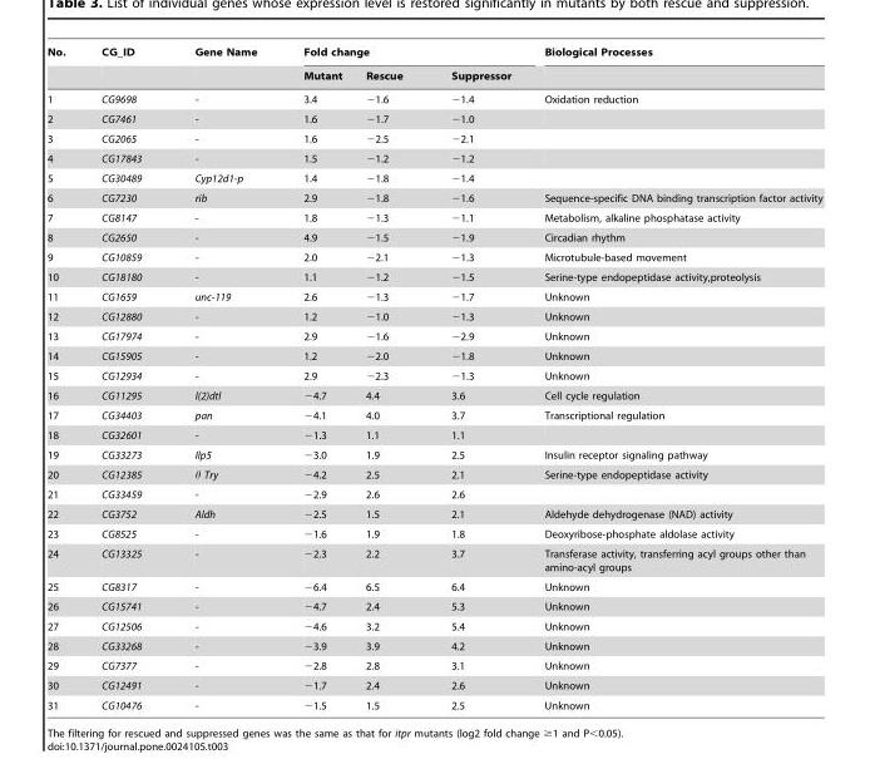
<table><thead><tr><td rowspan="2">No.</td><td rowspan="2">CG_ID</td><td rowspan="2">Gene Name</td><td colspan="3">Fold change</td><td rowspan="2">Biological Processes</td></tr><tr><td>Mutant</td><td>Rescue</td><td>Suppressor</td></tr></thead><tbody><tr><td>1</td><td>CG9698</td><td>-</td><td>3.4</td><td>−1.6</td><td>−1.4</td><td>Oxidation reduction</td></tr><tr><td>2</td><td>CG7461</td><td>-</td><td>1.6</td><td>−1.7</td><td>−1.0</td><td></td></tr><tr><td>3</td><td>CG2065</td><td>-</td><td>1.6</td><td>−2.5</td><td>−2.1</td><td></td></tr><tr><td>4</td><td>CG17843</td><td>-</td><td>1.5</td><td>−1.2</td><td>−1.2</td><td></td></tr><tr><td>5</td><td>CG30489</td><td>Cyp12d1-p</td><td>1.4</td><td>−1.8</td><td>−1.4</td><td></td></tr><tr><td>6</td><td>CG7230</td><td>rib</td><td>2.9</td><td>−1.8</td><td>−1.6</td><td>Sequence-specific DNA binding transcription factor activity</td></tr><tr><td>7</td><td>CG8147</td><td>-</td><td>1.8</td><td>−1.3</td><td>−1.1</td><td>Metabolism, alkaline phosphatase activity</td></tr><tr><td>8</td><td>CG2650</td><td>-</td><td>4.9</td><td>−1.5</td><td>−1.9</td><td>Circadian rhythm</td></tr><tr><td>9</td><td>CG10859</td><td>-</td><td>2.0</td><td>−2.1</td><td>−1.3</td><td>Microtubule-based movement</td></tr><tr><td>10</td><td>CG18180</td><td>-</td><td>1.1</td><td>−1.2</td><td>−1.5</td><td>Serine-type endopeptidase activity,proteolysis</td></tr><tr><td>11</td><td>CG1659</td><td>unc-119</td><td>2.6</td><td>−1.3</td><td>−1.7</td><td>Unknown</td></tr><tr><td>12</td><td>CG12880</td><td>-</td><td>1.2</td><td>−1.0</td><td>−1.3</td><td>Unknown</td></tr><tr><td>13</td><td>CG17974</td><td>-</td><td>2.9</td><td>−1.6</td><td>−2.9</td><td>Unknown</td></tr><tr><td>14</td><td>CG15905</td><td>-</td><td>1.2</td><td>−2.0</td><td>−1.8</td><td>Unknown</td></tr><tr><td>15</td><td>CG12934</td><td>-</td><td>2.9</td><td>−2.3</td><td>−1.3</td><td>Unknown</td></tr><tr><td>16</td><td>CG11295</td><td>l(2)dtl</td><td>−4.7</td><td>4.4</td><td>3.6</td><td>Cell cycle regulation</td></tr><tr><td>17</td><td>CG34403</td><td>pan</td><td>−4.1</td><td>4.0</td><td>3.7</td><td>Transcriptional regulation</td></tr><tr><td>18</td><td>CG32601</td><td>-</td><td>−1.3</td><td>1.1</td><td>1.1</td><td></td></tr><tr><td>19</td><td>CG33273</td><td>Ilp5</td><td>−3.0</td><td>1.9</td><td>2.5</td><td>Insulin receptor signaling pathway</td></tr><tr><td>20</td><td>CG12385</td><td>θ Try</td><td>−4.2</td><td>2.5</td><td>2.1</td><td>Serine-type endopeptidase activity</td></tr><tr><td>21</td><td>CG33459</td><td>-</td><td>−2.9</td><td>2.6</td><td>2.6</td><td></td></tr><tr><td>22</td><td>CG3752</td><td>Aldh</td><td>−2.5</td><td>1.5</td><td>2.1</td><td>Aldehyde dehydrogenase (NAD) activity</td></tr><tr><td>23</td><td>CG8525</td><td>-</td><td>−1.6</td><td>1.9</td><td>1.8</td><td>Deoxyribose-phosphate aldolase activity</td></tr><tr><td>24</td><td>CG13325</td><td>-</td><td>−2.3</td><td>2.2</td><td>3.7</td><td>Transferase activity, transferring acyl groups other than amino-acyl groups</td></tr><tr><td>25</td><td>CG8317</td><td>-</td><td>−6.4</td><td>6.5</td><td>6.4</td><td>Unknown</td></tr><tr><td>26</td><td>CG15741</td><td>-</td><td>−4.7</td><td>2.4</td><td>5.3</td><td>Unknown</td></tr><tr><td>27</td><td>CG12506</td><td>-</td><td>−4.6</td><td>3.2</td><td>5.4</td><td>Unknown</td></tr><tr><td>28</td><td>CG33268</td><td>-</td><td>−3.9</td><td>3.9</td><td>4.2</td><td>Unknown</td></tr><tr><td>29</td><td>CG7377</td><td>-</td><td>−2.8</td><td>2.8</td><td>3.1</td><td>Unknown</td></tr><tr><td>30</td><td>CG12491</td><td>-</td><td>−1.7</td><td>2.4</td><td>2.6</td><td>Unknown</td></tr><tr><td>31</td><td>CG10476</td><td>-</td><td>−1.5</td><td>1.5</td><td>2.5</td><td>Unknown</td></tr></tbody></table>